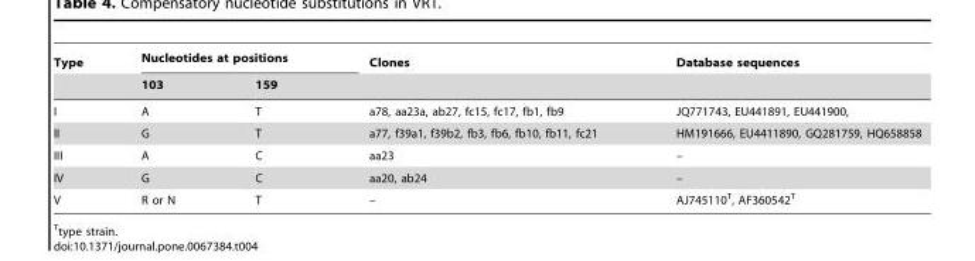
<table><thead><tr><td rowspan="2">Type</td><td colspan="2">Nucleotides at positions</td><td rowspan="2">Clones</td><td rowspan="2">Database sequences</td></tr><tr><td>103</td><td>159</td></tr></thead><tbody><tr><td>I</td><td>A</td><td>T</td><td>a78, aa23a, ab27, fc15, fc17, fb1, fb9</td><td>JQ771743, EU441891, EU441900,</td></tr><tr><td>II</td><td>G</td><td>T</td><td>a77, f39a1, f39b2, fb3, fb6, fb10, fb11, fc21</td><td>HM191666, EU4411890, GQ281759, HQ658858</td></tr><tr><td>III</td><td>A</td><td>C</td><td>aa23</td><td>–</td></tr><tr><td>IV</td><td>G</td><td>C</td><td>aa20, ab24</td><td>–</td></tr><tr><td>V</td><td>R or N</td><td>T</td><td>–</td><td>AJ745110<sup>T</sup>, AF360542<sup>T</sup></td></tr></tbody></table>